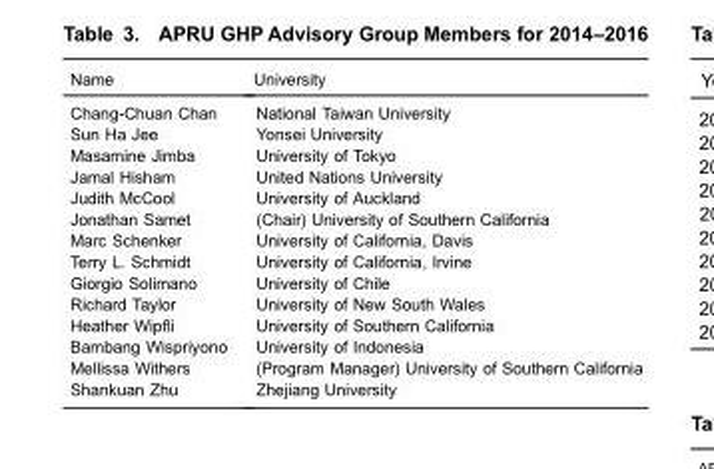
<table><thead><tr><td>Name</td><td>University</td></tr></thead><tbody><tr><td>Chang-Chuan Chan</td><td>National Taiwan University</td></tr><tr><td>Sun Ha Jee</td><td>Yonsei University</td></tr><tr><td>Masamine Jimba</td><td>University of Tokyo</td></tr><tr><td>Jamal Hisham</td><td>United Nations University</td></tr><tr><td>Judith McCool</td><td>University of Auckland</td></tr><tr><td>Jonathan Samet</td><td>(Chair) University of Southern California</td></tr><tr><td>Marc Schenker</td><td>University of California, Davis</td></tr><tr><td>Terry L. Schmidt</td><td>University of California, Irvine</td></tr><tr><td>Giorgio Solimano</td><td>University of Chile</td></tr><tr><td>Richard Taylor</td><td>University of New South Wales</td></tr><tr><td>Heather Wipfli</td><td>University of Southern California</td></tr><tr><td>Bambang Wispriyono</td><td>University of Indonesia</td></tr><tr><td>Mellissa Withers</td><td>(Program Manager) University of Southern California</td></tr><tr><td>Shankuan Zhu</td><td>Zhejiang University</td></tr></tbody></table>